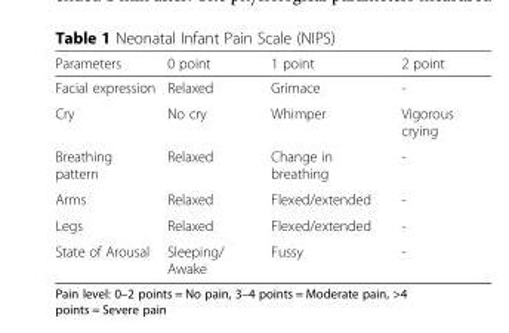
<table><thead><tr><td>Parameters</td><td>0 point</td><td>1 point</td><td>2 point</td></tr></thead><tbody><tr><td>Facial expression</td><td>Relaxed</td><td>Grimace</td><td>-</td></tr><tr><td>Cry</td><td>No cry</td><td>Whimper</td><td>Vigorous crying</td></tr><tr><td>Breathing pattern</td><td>Relaxed</td><td>Change in breathing</td><td>-</td></tr><tr><td>Arms</td><td>Relaxed</td><td>Flexed/extended</td><td>-</td></tr><tr><td>Legs</td><td>Relaxed</td><td>Flexed/extended</td><td>-</td></tr><tr><td>State of Arousal</td><td>Sleeping/ Awake</td><td>Fussy</td><td>-</td></tr></tbody></table>